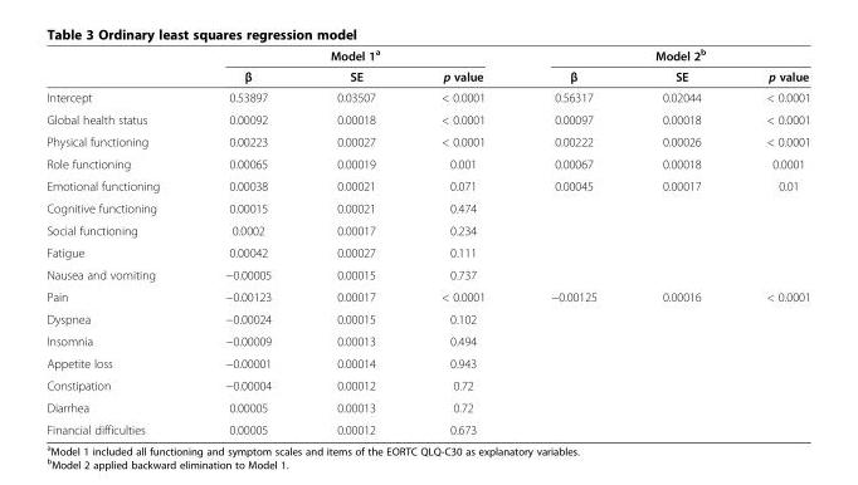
<table><thead><tr><td rowspan="2"></td><td colspan="3">Model 1<sup>a</sup></td><td colspan="3">Model 2<sup>b</sup></td></tr><tr><td>β</td><td>SE</td><td>p value</td><td>β</td><td>SE</td><td>p value</td></tr></thead><tbody><tr><td>Intercept</td><td>0.53897</td><td>0.03507</td><td>&lt; 0.0001</td><td>0.56317</td><td>0.02044</td><td>&lt; 0.0001</td></tr><tr><td>Global health status</td><td>0.00092</td><td>0.00018</td><td>&lt; 0.0001</td><td>0.00097</td><td>0.00018</td><td>&lt; 0.0001</td></tr><tr><td>Physical functioning</td><td>0.00223</td><td>0.00027</td><td>&lt; 0.0001</td><td>0.00222</td><td>0.00026</td><td>&lt; 0.0001</td></tr><tr><td>Role functioning</td><td>0.00065</td><td>0.00019</td><td>0.001</td><td>0.00067</td><td>0.00018</td><td>0.0001</td></tr><tr><td>Emotional functioning</td><td>0.00038</td><td>0.00021</td><td>0.071</td><td>0.00045</td><td>0.00017</td><td>0.01</td></tr><tr><td>Cognitive functioning</td><td>0.00015</td><td>0.00021</td><td>0.474</td><td></td><td></td><td></td></tr><tr><td>Social functioning</td><td>0.0002</td><td>0.00017</td><td>0.234</td><td></td><td></td><td></td></tr><tr><td>Fatigue</td><td>0.00042</td><td>0.00027</td><td>0.111</td><td></td><td></td><td></td></tr><tr><td>Nausea and vomiting</td><td>−0.00005</td><td>0.00015</td><td>0.737</td><td></td><td></td><td></td></tr><tr><td>Pain</td><td>−0.00123</td><td>0.00017</td><td>&lt; 0.0001</td><td>−0.00125</td><td>0.00016</td><td>&lt; 0.0001</td></tr><tr><td>Dyspnea</td><td>−0.00024</td><td>0.00015</td><td>0.102</td><td></td><td></td><td></td></tr><tr><td>Insomnia</td><td>−0.00009</td><td>0.00013</td><td>0.494</td><td></td><td></td><td></td></tr><tr><td>Appetite loss</td><td>−0.00001</td><td>0.00014</td><td>0.943</td><td></td><td></td><td></td></tr><tr><td>Constipation</td><td>−0.00004</td><td>0.00012</td><td>0.72</td><td></td><td></td><td></td></tr><tr><td>Diarrhea</td><td>0.00005</td><td>0.00013</td><td>0.72</td><td></td><td></td><td></td></tr><tr><td>Financial difficulties</td><td>0.00005</td><td>0.00012</td><td>0.673</td><td></td><td></td><td></td></tr></tbody></table>